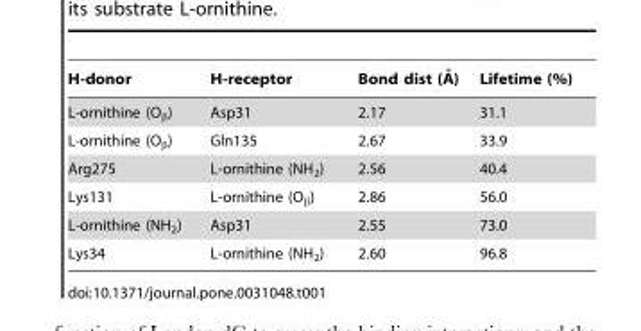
<table><thead><tr><td>H-donor</td><td>H-receptor</td><td>Bond dist (A˚ )</td><td>Lifetime (%)</td></tr></thead><tbody><tr><td>L-ornithine (O<sub>β</sub>)</td><td>Asp31</td><td>2.17</td><td>31.1</td></tr><tr><td>L-ornithine (O<sub>β</sub>)</td><td>Gln135</td><td>2.67</td><td>33.9</td></tr><tr><td>Arg275</td><td>L-ornithine (NH<sub>2</sub>)</td><td>2.56</td><td>40.4</td></tr><tr><td>Lys131</td><td>L-ornithine (O<sub>β</sub>)</td><td>2.86</td><td>56.0</td></tr><tr><td>L-ornithine (NH<sub>2</sub>)</td><td>Asp31</td><td>2.55</td><td>73.0</td></tr><tr><td>Lys34</td><td>L-ornithine (NH<sub>2</sub>)</td><td>2.60</td><td>96.8</td></tr></tbody></table>